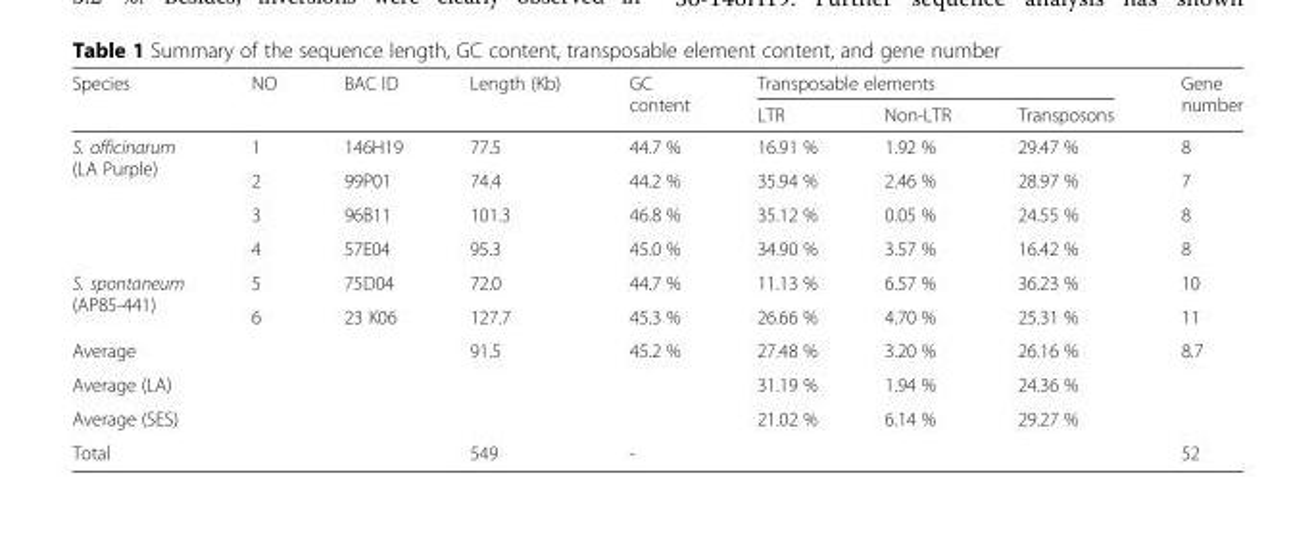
<table><thead><tr><td rowspan="2">Species</td><td rowspan="2">NO</td><td rowspan="2">BAC ID</td><td rowspan="2">Length (Kb)</td><td rowspan="2">GC content</td><td colspan="3">Transposable elements</td><td rowspan="2">Gene number</td></tr><tr><td>LTR</td><td>Non-LTR</td><td>Transposons</td></tr></thead><tbody><tr><td rowspan="4">S. officinarum (LA Purple)</td><td>1</td><td>146H19</td><td>77.5</td><td>44.7 %</td><td>16.91 %</td><td>1.92 %</td><td>29.47 %</td><td>8</td></tr><tr><td>2</td><td>99P01</td><td>74.4</td><td>44.2 %</td><td>35.94 %</td><td>2.46 %</td><td>28.97 %</td><td>7</td></tr><tr><td>3</td><td>96B11</td><td>101.3</td><td>46.8 %</td><td>35.12 %</td><td>0.05 %</td><td>24.55 %</td><td>8</td></tr><tr><td>4</td><td>57E04</td><td>95.3</td><td>45.0 %</td><td>34.90 %</td><td>3.57 %</td><td>16.42 %</td><td>8</td></tr><tr><td rowspan="2">S. spontaneum (AP85-441)</td><td>5</td><td>75D04</td><td>72.0</td><td>44.7 %</td><td>11.13 %</td><td>6.57 %</td><td>36.23 %</td><td>10</td></tr><tr><td>6</td><td>23 K06</td><td>127.7</td><td>45.3 %</td><td>26.66 %</td><td>4.70 %</td><td>25.31 %</td><td>11</td></tr><tr><td colspan="3">Average</td><td>91.5</td><td>45.2 %</td><td>27.48 %</td><td>3.20 %</td><td>26.16 %</td><td>8.7</td></tr><tr><td colspan="3">Average (LA)</td><td></td><td></td><td>31.19 %</td><td>1.94 %</td><td>24.36 %</td><td></td></tr><tr><td colspan="3">Average (SES)</td><td></td><td></td><td>21.02 %</td><td>6.14 %</td><td>29.27 %</td><td></td></tr><tr><td colspan="3">Total</td><td>549</td><td>-</td><td></td><td></td><td></td><td>52</td></tr></tbody></table>